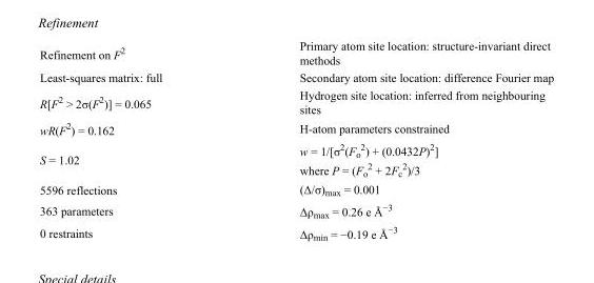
<table><tbody><tr><td>Refinement on F<sup>2</sup></td><td>Primary atom site location: structure-invariant direct methods</td></tr><tr><td>Least-squares matrix: full</td><td>Secondary atom site location: difference Fourier map</td></tr><tr><td>R[F<sup>2</sup> &gt; 2σ(F<sup>2</sup>)] = 0.065</td><td>Hydrogen site location: inferred from neighbouring sites</td></tr><tr><td>wR(F<sup>2</sup>) = 0.162</td><td>H-atom parameters constrained</td></tr><tr><td>S = 1.02</td><td>w = 1/[σ<sup>2</sup>(F<sub>o</sub> <sup>2</sup>) + (0.0432P)<sup>2</sup>] where P = (F<sub>o</sub> <sup>2</sup> + 2F<sub>c</sub> <sup>2</sup>)/3</td></tr><tr><td>5596 reflections</td><td>(Δ/σ)<sub>max</sub> = 0.001</td></tr><tr><td>363 parameters</td><td>Δρ<sub>max</sub> = 0.26 e Å<sup>−3</sup></td></tr><tr><td>0 restraints</td><td>Δρ<sub>min</sub> = −0.19 e Å<sup>−3</sup></td></tr></tbody></table>